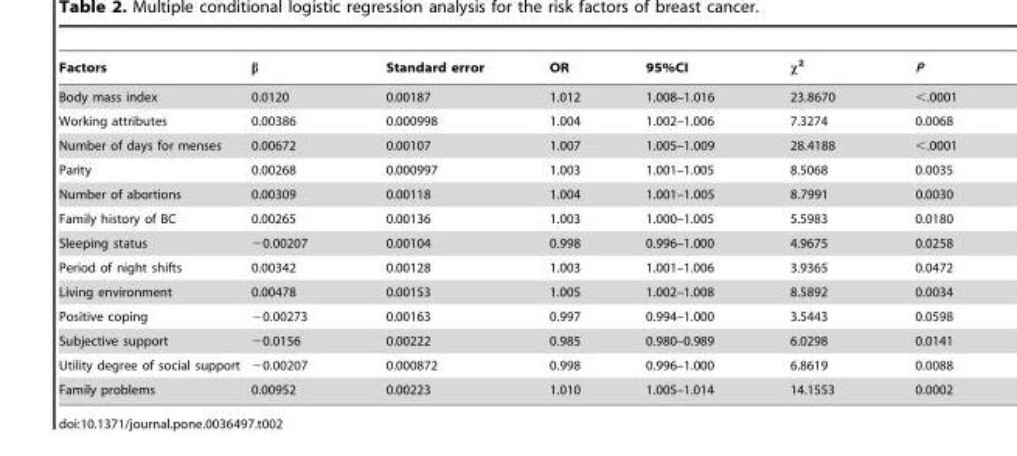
<table><thead><tr><td>Factors</td><td>β</td><td>Standard error</td><td>OR</td><td>95%CI</td><td>χ<sup>2</sup></td><td>P</td></tr></thead><tbody><tr><td>Body mass index</td><td>0.0120</td><td>0.00187</td><td>1.012</td><td>1.008–1.016</td><td>23.8670</td><td>&lt;.0001</td></tr><tr><td>Working attributes</td><td>0.00386</td><td>0.000998</td><td>1.004</td><td>1.002–1.006</td><td>7.3274</td><td>0.0068</td></tr><tr><td>Number of days for menses</td><td>0.00672</td><td>0.00107</td><td>1.007</td><td>1.005–1.009</td><td>28.4188</td><td>&lt;.0001</td></tr><tr><td>Parity</td><td>0.00268</td><td>0.000997</td><td>1.003</td><td>1.001–1.005</td><td>8.5068</td><td>0.0035</td></tr><tr><td>Number of abortions</td><td>0.00309</td><td>0.00118</td><td>1.004</td><td>1.001–1.005</td><td>8.7991</td><td>0.0030</td></tr><tr><td>Family history of BC</td><td>0.00265</td><td>0.00136</td><td>1.003</td><td>1.000–1.005</td><td>5.5983</td><td>0.0180</td></tr><tr><td>Sleeping status</td><td>−0.00207</td><td>0.00104</td><td>0.998</td><td>0.996–1.000</td><td>4.9675</td><td>0.0258</td></tr><tr><td>Period of night shifts</td><td>0.00342</td><td>0.00128</td><td>1.003</td><td>1.001–1.006</td><td>3.9365</td><td>0.0472</td></tr><tr><td>Living environment</td><td>0.00478</td><td>0.00153</td><td>1.005</td><td>1.002–1.008</td><td>8.5892</td><td>0.0034</td></tr><tr><td>Positive coping</td><td>−0.00273</td><td>0.00163</td><td>0.997</td><td>0.994–1.000</td><td>3.5443</td><td>0.0598</td></tr><tr><td>Subjective support</td><td>−0.0156</td><td>0.00222</td><td>0.985</td><td>0.980–0.989</td><td>6.0298</td><td>0.0141</td></tr><tr><td>Utility degree of social support</td><td>−0.00207</td><td>0.000872</td><td>0.998</td><td>0.996–1.000</td><td>6.8619</td><td>0.0088</td></tr><tr><td>Family problems</td><td>0.00952</td><td>0.00223</td><td>1.010</td><td>1.005–1.014</td><td>14.1553</td><td>0.0002</td></tr></tbody></table>